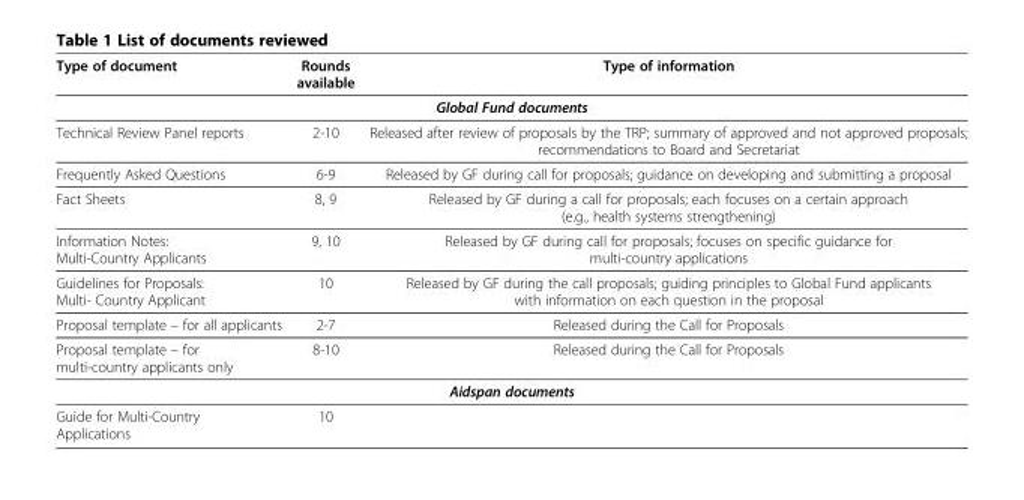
<table><thead><tr><td>Type of document</td><td>Rounds available</td><td>Type of information</td></tr></thead><tbody><tr><td colspan="3">Global Fund documents</td></tr><tr><td>Technical Review Panel reports</td><td>2-10</td><td>Released after review of proposals by the TRP; summary of approved and not approved proposals; recommendations to Board and Secretariat</td></tr><tr><td>Frequently Asked Questions</td><td>6-9</td><td>Released by GF during call for proposals; guidance on developing and submitting a proposal</td></tr><tr><td>Fact Sheets</td><td>8, 9</td><td>Released by GF during a call for proposals; each focuses on a certain approach (e.g., health systems strengthening)</td></tr><tr><td>Information Notes: Multi-Country Applicants</td><td>9, 10</td><td>Released by GF during call for proposals; focuses on specific guidance for multi-country applications</td></tr><tr><td>Guidelines for Proposals: Multi- Country Applicant</td><td>10</td><td>Released by GF during the call proposals; guiding principles to Global Fund applicants with information on each question in the proposal</td></tr><tr><td>Proposal template – for all applicants</td><td>2-7</td><td>Released during the Call for Proposals</td></tr><tr><td>Proposal template – for multi-country applicants only</td><td>8-10</td><td>Released during the Call for Proposals</td></tr><tr><td colspan="3">Aidspan documents</td></tr><tr><td>Guide for Multi-Country Applications</td><td>10</td><td></td></tr></tbody></table>